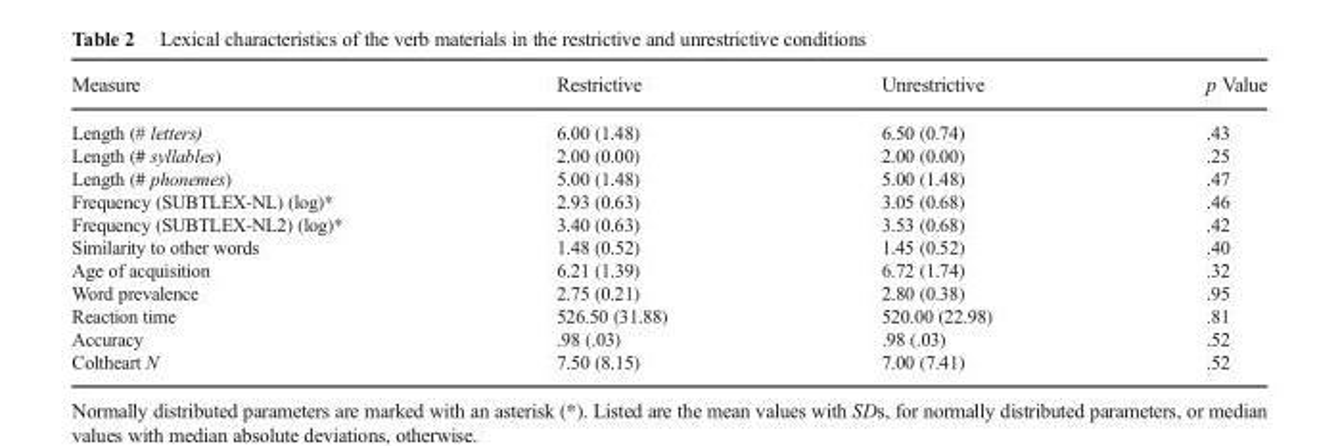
<table><thead><tr><td>Measure</td><td>Restrictive</td><td>Unrestrictive</td><td>p Value</td></tr></thead><tbody><tr><td>Length (# letters)</td><td>6.00 (1.48)</td><td>6.50 (0.74)</td><td>.43</td></tr><tr><td>Length (# syllables)</td><td>2.00 (0.00)</td><td>2.00 (0.00)</td><td>.25</td></tr><tr><td>Length (# phonemes)</td><td>5.00 (1.48)</td><td>5.00 (1.48)</td><td>.47</td></tr><tr><td>Frequency (SUBTLEX-NL) (log)*</td><td>2.93 (0.63)</td><td>3.05 (0.68)</td><td>.46</td></tr><tr><td>Frequency (SUBTLEX-NL2) (log)*</td><td>3.40 (0.63)</td><td>3.53 (0.68)</td><td>.42</td></tr><tr><td>Similarity to other words</td><td>1.48 (0.52)</td><td>1.45 (0.52)</td><td>.40</td></tr><tr><td>Age of acquisition</td><td>6.21 (1.39)</td><td>6.72 (1.74)</td><td>.32</td></tr><tr><td>Word prevalence</td><td>2.75 (0.21)</td><td>2.80 (0.38)</td><td>.95</td></tr><tr><td>Reaction time</td><td>526.50 (31.88)</td><td>520.00 (22.98)</td><td>.81</td></tr><tr><td>Accuracy</td><td>.98 (.03)</td><td>.98 (.03)</td><td>.52</td></tr><tr><td>Coltheart N</td><td>7.50 (8.15)</td><td>7.00 (7.41)</td><td>.52</td></tr></tbody></table>